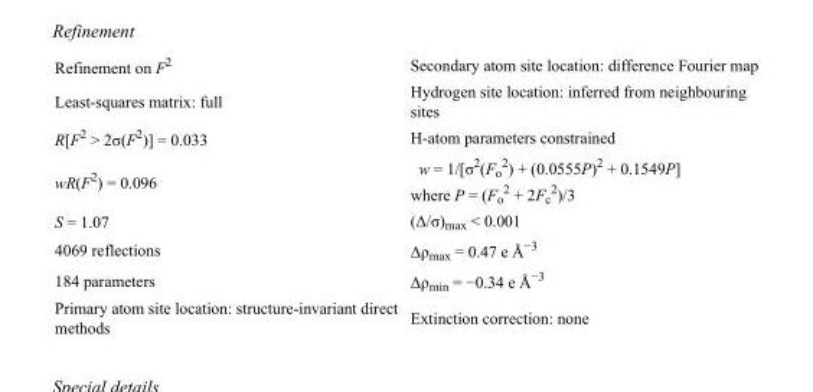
<table><tbody><tr><td>Refinement on F<sup>2</sup></td><td>Secondary atom site location: difference Fourier map</td></tr><tr><td>Least-squares matrix: full</td><td>Hydrogen site location: inferred from neighbouring sites</td></tr><tr><td>R[F<sup>2</sup> &gt; 2σ(F<sup>2</sup>)] = 0.033</td><td>H-atom parameters constrained</td></tr><tr><td>wR(F<sup>2</sup>) = 0.096</td><td>w = 1/[σ<sup>2</sup>(F<sub>o</sub> <sup>2</sup>) + (0.0555P)<sup>2</sup> + 0.1549P] where P = (F<sub>o</sub> <sup>2</sup> + 2F<sub>c</sub> <sup>2</sup>)/3</td></tr><tr><td>S = 1.07</td><td>(Δ/σ)<sub>max</sub> &lt; 0.001</td></tr><tr><td>4069 reflections</td><td>Δρ<sub>max</sub> = 0.47 e Å<sup>−3</sup></td></tr><tr><td>184 parameters</td><td>Δρ<sub>min</sub> = −0.34 e Å<sup>−3</sup></td></tr><tr><td>Primary atom site location: structure-invariant direct methods</td><td>Extinction correction: none</td></tr></tbody></table>